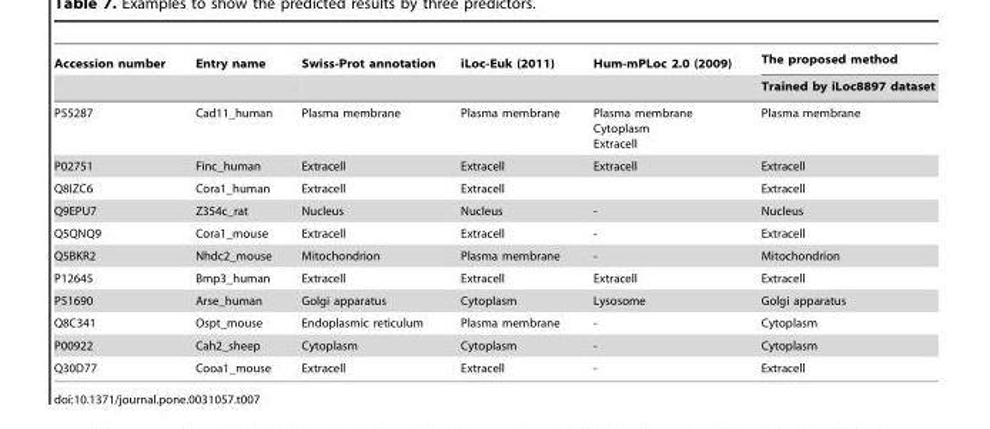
<table><thead><tr><td rowspan="2">Accession number</td><td rowspan="2">Entry name</td><td rowspan="2">Swiss-Prot annotation</td><td rowspan="2">iLoc-Euk (2011)</td><td rowspan="2">Hum-mPLoc 2.0 (2009)</td><td rowspan="2">The proposed method Trained by iLoc8897 dataset</td></tr><tr></tr></thead><tbody><tr><td>P55287</td><td>Cad11_human</td><td>Plasma membrane</td><td>Plasma membrane</td><td>Plasma membrane Cytoplasm Extracell</td><td>Plasma membrane</td></tr><tr><td>P02751</td><td>Finc_human</td><td>Extracell</td><td>Extracell</td><td>Extracell</td><td>Extracell</td></tr><tr><td>Q8IZC6</td><td>Cora1_human</td><td>Extracell</td><td>Extracell</td><td></td><td>Extracell</td></tr><tr><td>Q9EPU7</td><td>Z354c_rat</td><td>Nucleus</td><td>Nucleus</td><td>-</td><td>Nucleus</td></tr><tr><td>Q5QNQ9</td><td>Cora1_mouse</td><td>Extracell</td><td>Extracell</td><td>-</td><td>Extracell</td></tr><tr><td>Q5BKR2</td><td>Nhdc2_mouse</td><td>Mitochondrion</td><td>Plasma membrane</td><td>-</td><td>Mitochondrion</td></tr><tr><td>P12645</td><td>Bmp3_human</td><td>Extracell</td><td>Extracell</td><td>Extracell</td><td>Extracell</td></tr><tr><td>P51690</td><td>Arse_human</td><td>Golgi apparatus</td><td>Cytoplasm</td><td>Lysosome</td><td>Golgi apparatus</td></tr><tr><td>Q8C341</td><td>Ospt_mouse</td><td>Endoplasmic reticulum</td><td>Plasma membrane</td><td>-</td><td>Cytoplasm</td></tr><tr><td>P00922</td><td>Cah2_sheep</td><td>Cytoplasm</td><td>Cytoplasm</td><td>-</td><td>Cytoplasm</td></tr><tr><td>Q30D77</td><td>Cooa1_mouse</td><td>Extracell</td><td>Extracell</td><td>-</td><td>Extracell</td></tr></tbody></table>